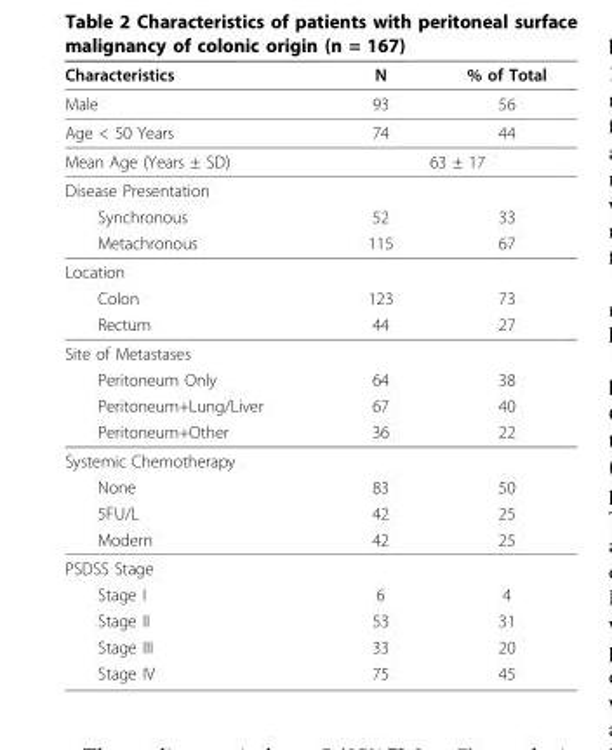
<table><thead><tr><td>Characteristics</td><td>N</td><td>% of Total</td></tr></thead><tbody><tr><td>Male</td><td>93</td><td>56</td></tr><tr><td>Age &lt; 50 Years</td><td>74</td><td>44</td></tr><tr><td>Mean Age (Years ± SD)</td><td colspan="2">63 ± 17</td></tr><tr><td colspan="3">Disease Presentation</td></tr><tr><td>Synchronous</td><td>52</td><td>33</td></tr><tr><td>Metachronous</td><td>115</td><td>67</td></tr><tr><td colspan="3">Location</td></tr><tr><td>Colon</td><td>123</td><td>73</td></tr><tr><td>Rectum</td><td>44</td><td>27</td></tr><tr><td colspan="3">Site of Metastases</td></tr><tr><td>Peritoneum Only</td><td>64</td><td>38</td></tr><tr><td>Peritoneum+Lung/Liver</td><td>67</td><td>40</td></tr><tr><td>Peritoneum+Other</td><td>36</td><td>22</td></tr><tr><td colspan="3">Systemic Chemotherapy</td></tr><tr><td>None</td><td>83</td><td>50</td></tr><tr><td>5FU/L</td><td>42</td><td>25</td></tr><tr><td>Modern</td><td>42</td><td>25</td></tr><tr><td colspan="3">PSDSS Stage</td></tr><tr><td>Stage I</td><td>6</td><td>4</td></tr><tr><td>Stage II</td><td>53</td><td>31</td></tr><tr><td>Stage III</td><td>33</td><td>20</td></tr><tr><td>Stage IV</td><td>75</td><td>45</td></tr></tbody></table>